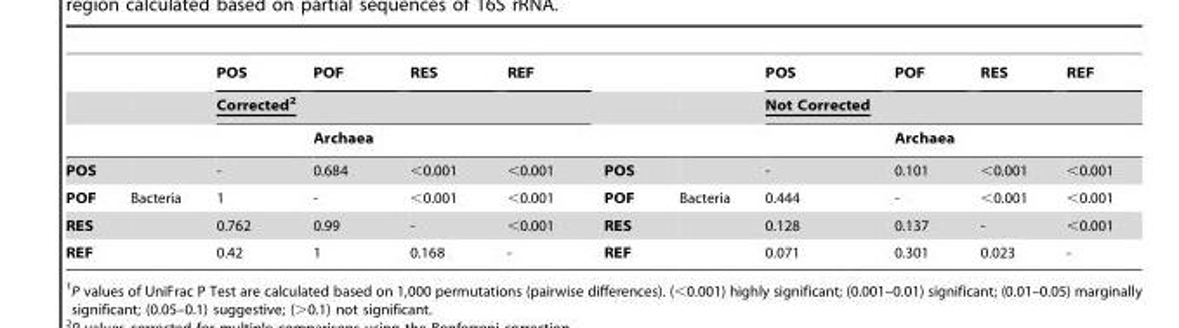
<table><thead><tr><td rowspan="3"></td><td rowspan="3"></td><td>POS</td><td>POF</td><td>RES</td><td>REF</td><td rowspan="3"></td><td rowspan="3"></td><td>POS</td><td>POF</td><td>RES</td><td>REF</td></tr><tr><td colspan="4">Corrected2</td><td colspan="4">Not Corrected</td></tr><tr><td></td><td colspan="3">Archaea</td><td></td><td colspan="3">Archaea</td></tr></thead><tbody><tr><td>POS</td><td></td><td>-</td><td>0.684</td><td>&lt;0.001</td><td>&lt;0.001</td><td>POS</td><td></td><td>-</td><td>0.101</td><td>&lt;0.001</td><td>&lt;0.001</td></tr><tr><td>POF</td><td>Bacteria</td><td>1</td><td>-</td><td>&lt;0.001</td><td>&lt;0.001</td><td>POF</td><td>Bacteria</td><td>0.444</td><td>-</td><td>&lt;0.001</td><td>&lt;0.001</td></tr><tr><td>RES</td><td></td><td>0.762</td><td>0.99</td><td>-</td><td>&lt;0.001</td><td>RES</td><td></td><td>0.128</td><td>0.137</td><td>-</td><td>&lt;0.001</td></tr><tr><td>REF</td><td></td><td>0.42</td><td>1</td><td>0.168</td><td>-</td><td>REF</td><td></td><td>0.071</td><td>0.301</td><td>0.023</td><td>-</td></tr></tbody></table>